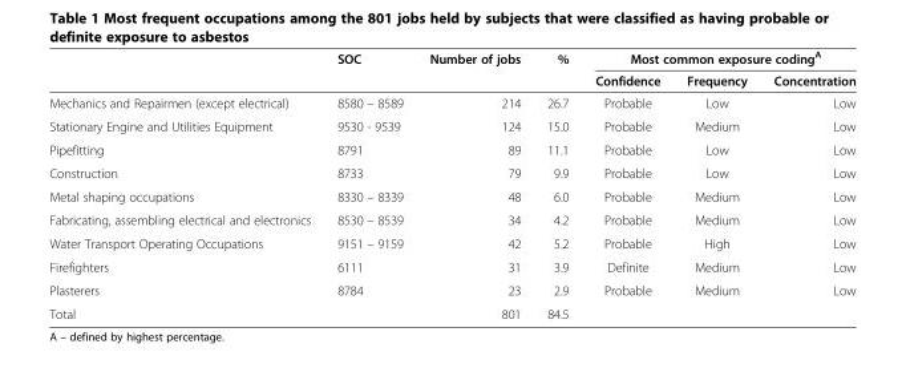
<table><thead><tr><td rowspan="2"></td><td rowspan="2">SOC</td><td rowspan="2">Number of jobs</td><td rowspan="2">%</td><td colspan="3">Most common exposure coding<sup>A</sup></td></tr><tr><td>Confidence</td><td>Frequency</td><td>Concentration</td></tr></thead><tbody><tr><td>Mechanics and Repairmen (except electrical)</td><td>8580 – 8589</td><td>214</td><td>26.7</td><td>Probable</td><td>Low</td><td>Low</td></tr><tr><td>Stationary Engine and Utilities Equipment</td><td>9530 - 9539</td><td>124</td><td>15.0</td><td>Probable</td><td>Medium</td><td>Low</td></tr><tr><td>Pipefitting</td><td>8791</td><td>89</td><td>11.1</td><td>Probable</td><td>Low</td><td>Low</td></tr><tr><td>Construction</td><td>8733</td><td>79</td><td>9.9</td><td>Probable</td><td>Low</td><td>Low</td></tr><tr><td>Metal shaping occupations</td><td>8330 – 8339</td><td>48</td><td>6.0</td><td>Probable</td><td>Medium</td><td>Low</td></tr><tr><td>Fabricating, assembling electrical and electronics</td><td>8530 – 8539</td><td>34</td><td>4.2</td><td>Probable</td><td>Medium</td><td>Low</td></tr><tr><td>Water Transport Operating Occupations</td><td>9151 – 9159</td><td>42</td><td>5.2</td><td>Probable</td><td>High</td><td>Low</td></tr><tr><td>Firefighters</td><td>6111</td><td>31</td><td>3.9</td><td>Definite</td><td>Medium</td><td>Low</td></tr><tr><td>Plasterers</td><td>8784</td><td>23</td><td>2.9</td><td>Probable</td><td>Medium</td><td>Low</td></tr><tr><td>Total</td><td></td><td>801</td><td>84.5</td><td></td><td></td><td></td></tr></tbody></table>